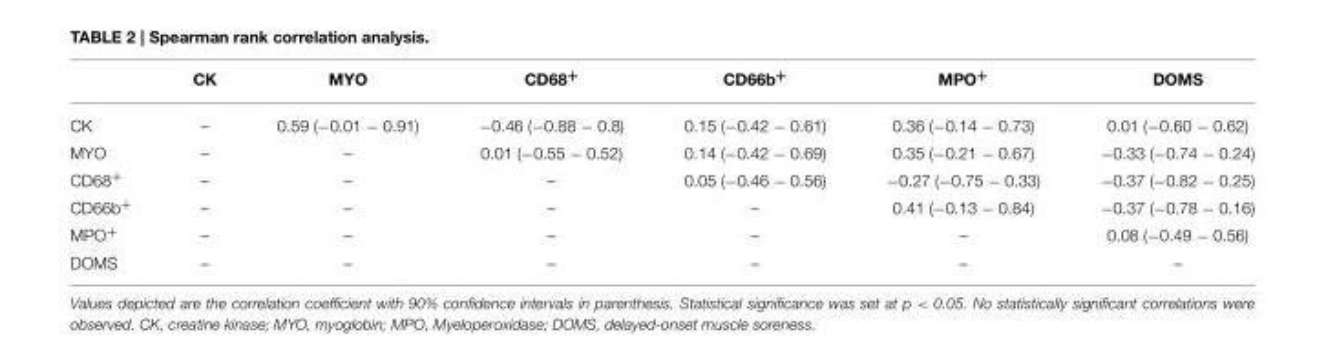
<table><thead><tr><td></td><td>CK</td><td>MYO</td><td>CD68<sup>+</sup></td><td>CD66b<sup>+</sup></td><td>MPO<sup>+</sup></td><td>DOMS</td></tr></thead><tbody><tr><td>CK</td><td>–</td><td>0.59 (−0.01 − 0.91)</td><td>−0.46 (−0.88 − 0.8)</td><td>0.15 (−0.42 − 0.61)</td><td>0.36 (−0.14 − 0.73)</td><td>0.01 (−0.60 − 0.62)</td></tr><tr><td>MYO</td><td>–</td><td>–</td><td>0.01 (−0.55 − 0.52)</td><td>0.14 (−0.42 − 0.69)</td><td>0.35 (−0.21 − 0.67)</td><td>−0.33 (−0.74 − 0.24)</td></tr><tr><td>CD68<sup>+</sup></td><td>–</td><td>–</td><td>–</td><td>0.05 (−0.46 − 0.56)</td><td>−0.27 (−0.75 − 0.33)</td><td>−0.37 (−0.82 − 0.25)</td></tr><tr><td>CD66b<sup>+</sup></td><td>–</td><td>–</td><td>–</td><td>–</td><td>0.41 (−0.13 − 0.84)</td><td>−0.37 (−0.78 − 0.16)</td></tr><tr><td>MPO<sup>+</sup></td><td>–</td><td>–</td><td>–</td><td>–</td><td>–</td><td>0.08 (−0.49 − 0.56)</td></tr><tr><td>DOMS</td><td>–</td><td>–</td><td>–</td><td>–</td><td>–</td><td>–</td></tr></tbody></table>